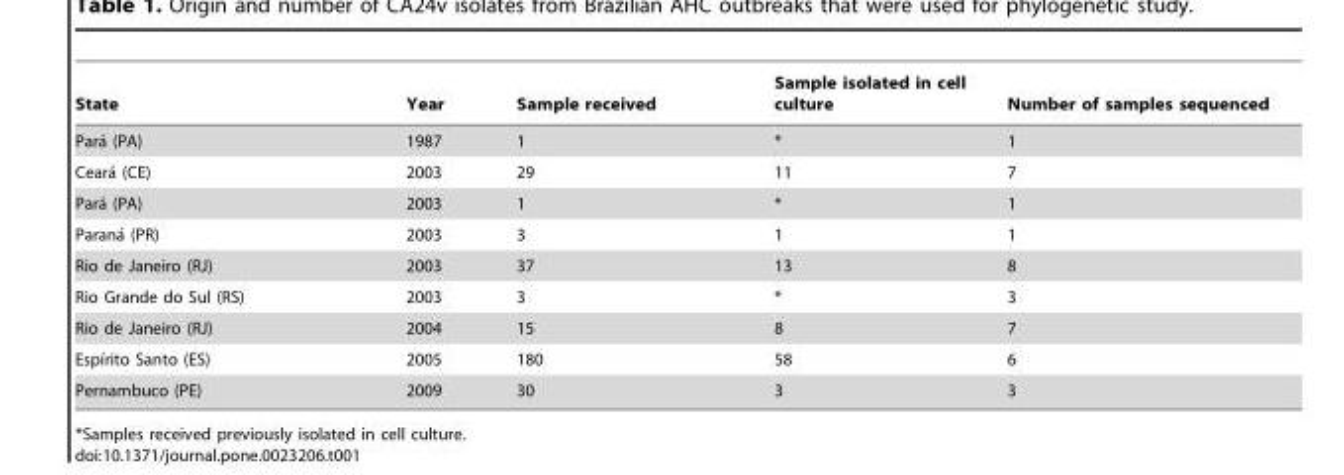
<table><thead><tr><td>State</td><td>Year</td><td>Sample received</td><td>Sample isolated in cell culture</td><td>Number of samples sequenced</td></tr></thead><tbody><tr><td>Para´ (PA)</td><td>1987</td><td>1</td><td>*</td><td>1</td></tr><tr><td>Ceara´ (CE)</td><td>2003</td><td>29</td><td>11</td><td>7</td></tr><tr><td>Para´ (PA)</td><td>2003</td><td>1</td><td>*</td><td>1</td></tr><tr><td>Parana´ (PR)</td><td>2003</td><td>3</td><td>1</td><td>1</td></tr><tr><td>Rio de Janeiro (RJ)</td><td>2003</td><td>37</td><td>13</td><td>8</td></tr><tr><td>Rio Grande do Sul (RS)</td><td>2003</td><td>3</td><td>*</td><td>3</td></tr><tr><td>Rio de Janeiro (RJ)</td><td>2004</td><td>15</td><td>8</td><td>7</td></tr><tr><td>Espı´rito Santo (ES)</td><td>2005</td><td>180</td><td>58</td><td>6</td></tr><tr><td>Pernambuco (PE)</td><td>2009</td><td>30</td><td>3</td><td>3</td></tr></tbody></table>